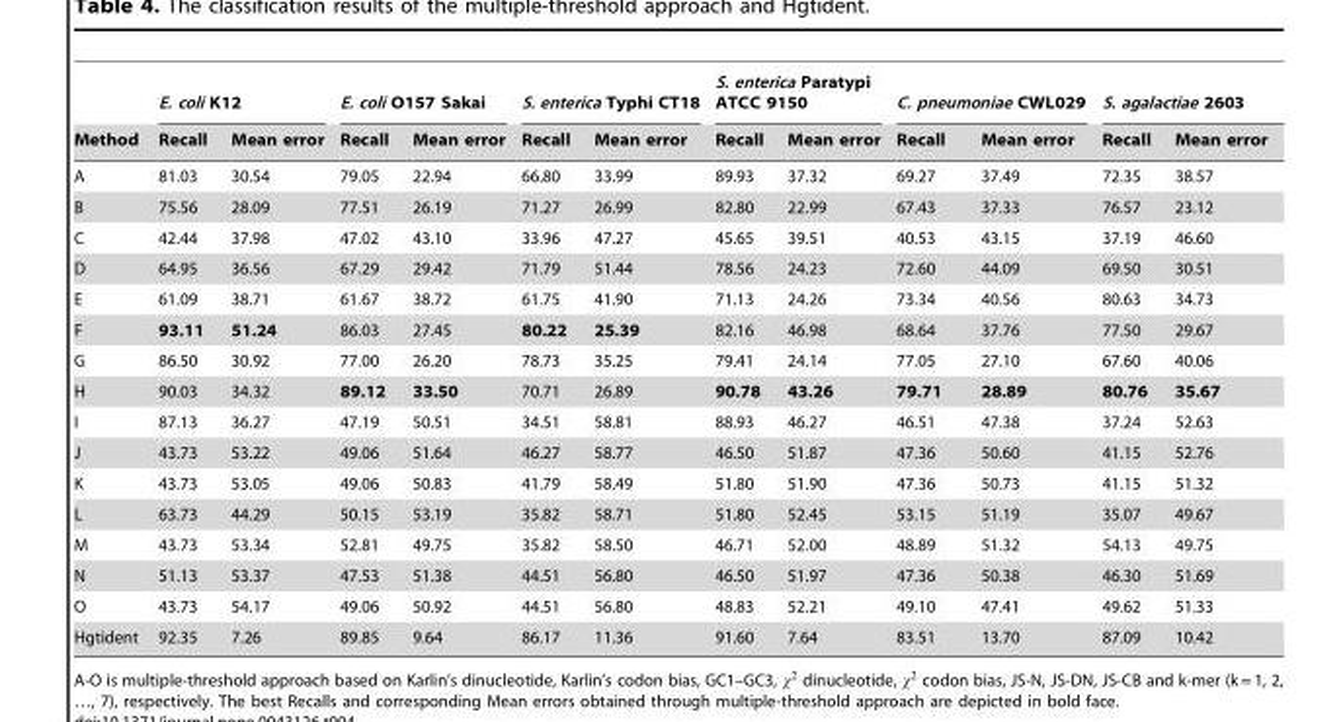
<table><thead><tr><td rowspan="2">Method</td><td colspan="2">E. coli K12</td><td colspan="2">E. coli O157 Sakai</td><td colspan="2">S. enterica Typhi CT18</td><td colspan="2">S. enterica Paratypi ATCC 9150</td><td colspan="2">C. pneumoniae CWL029</td><td colspan="2">S. agalactiae 2603</td></tr><tr><td>Recall</td><td>Mean error</td><td>Recall</td><td>Mean error</td><td>Recall</td><td>Mean error</td><td>Recall</td><td>Mean error</td><td>Recall</td><td>Mean error</td><td>Recall</td><td>Mean error</td></tr></thead><tbody><tr><td>A</td><td>81.03</td><td>30.54</td><td>79.05</td><td>22.94</td><td>66.80</td><td>33.99</td><td>89.93</td><td>37.32</td><td>69.27</td><td>37.49</td><td>72.35</td><td>38.57</td></tr><tr><td>B</td><td>75.56</td><td>28.09</td><td>77.51</td><td>26.19</td><td>71.27</td><td>26.99</td><td>82.80</td><td>22.99</td><td>67.43</td><td>37.33</td><td>76.57</td><td>23.12</td></tr><tr><td>C</td><td>42.44</td><td>37.98</td><td>47.02</td><td>43.10</td><td>33.96</td><td>47.27</td><td>45.65</td><td>39.51</td><td>40.53</td><td>43.15</td><td>37.19</td><td>46.60</td></tr><tr><td>D</td><td>64.95</td><td>36.56</td><td>67.29</td><td>29.42</td><td>71.79</td><td>51.44</td><td>78.56</td><td>24.23</td><td>72.60</td><td>44.09</td><td>69.50</td><td>30.51</td></tr><tr><td>E</td><td>61.09</td><td>38.71</td><td>61.67</td><td>38.72</td><td>61.75</td><td>41.90</td><td>71.13</td><td>24.26</td><td>73.34</td><td>40.56</td><td>80.63</td><td>34.73</td></tr><tr><td>F</td><td>93.11</td><td>51.24</td><td>86.03</td><td>27.45</td><td>80.22</td><td>25.39</td><td>82.16</td><td>46.98</td><td>68.64</td><td>37.76</td><td>77.50</td><td>29.67</td></tr><tr><td>G</td><td>86.50</td><td>30.92</td><td>77.00</td><td>26.20</td><td>78.73</td><td>35.25</td><td>79.41</td><td>24.14</td><td>77.05</td><td>27.10</td><td>67.60</td><td>40.06</td></tr><tr><td>H</td><td>90.03</td><td>34.32</td><td>89.12</td><td>33.50</td><td>70.71</td><td>26.89</td><td>90.78</td><td>43.26</td><td>79.71</td><td>28.89</td><td>80.76</td><td>35.67</td></tr><tr><td>I</td><td>87.13</td><td>36.27</td><td>47.19</td><td>50.51</td><td>34.51</td><td>58.81</td><td>88.93</td><td>46.27</td><td>46.51</td><td>47.38</td><td>37.24</td><td>52.63</td></tr><tr><td>J</td><td>43.73</td><td>53.22</td><td>49.06</td><td>51.64</td><td>46.27</td><td>58.77</td><td>46.50</td><td>51.87</td><td>47.36</td><td>50.60</td><td>41.15</td><td>52.76</td></tr><tr><td>K</td><td>43.73</td><td>53.05</td><td>49.06</td><td>50.83</td><td>41.79</td><td>58.49</td><td>51.80</td><td>51.90</td><td>47.36</td><td>50.73</td><td>41.15</td><td>51.32</td></tr><tr><td>L</td><td>63.73</td><td>44.29</td><td>50.15</td><td>53.19</td><td>35.82</td><td>58.71</td><td>51.80</td><td>52.45</td><td>53.15</td><td>51.19</td><td>35.07</td><td>49.67</td></tr><tr><td>M</td><td>43.73</td><td>53.34</td><td>52.81</td><td>49.75</td><td>35.82</td><td>58.50</td><td>46.71</td><td>52.00</td><td>48.89</td><td>51.32</td><td>54.13</td><td>49.75</td></tr><tr><td>N</td><td>51.13</td><td>53.37</td><td>47.53</td><td>51.38</td><td>44.51</td><td>56.80</td><td>46.50</td><td>51.97</td><td>47.36</td><td>50.38</td><td>46.30</td><td>51.69</td></tr><tr><td>O</td><td>43.73</td><td>54.17</td><td>49.06</td><td>50.92</td><td>44.51</td><td>56.80</td><td>48.83</td><td>52.21</td><td>49.10</td><td>47.41</td><td>49.62</td><td>51.33</td></tr><tr><td>Hgtident</td><td>92.35</td><td>7.26</td><td>89.85</td><td>9.64</td><td>86.17</td><td>11.36</td><td>91.60</td><td>7.64</td><td>83.51</td><td>13.70</td><td>87.09</td><td>10.42</td></tr></tbody></table>